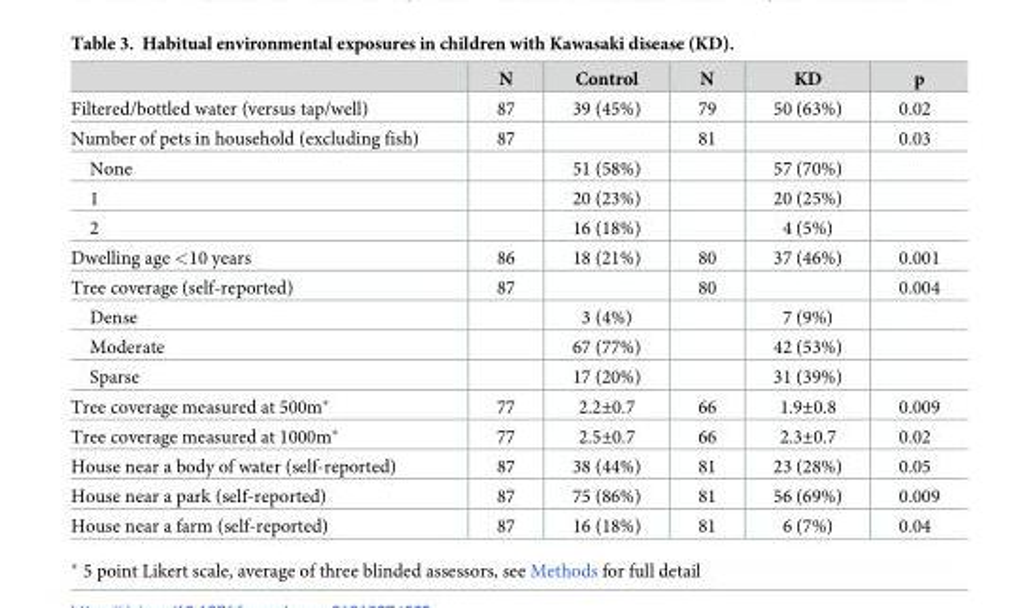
<table><thead><tr><td></td><td>N</td><td>Control</td><td>N</td><td>KD</td><td>p</td></tr></thead><tbody><tr><td>Filtered/bottled water (versus tap/well)</td><td>87</td><td>39 (45%)</td><td>79</td><td>50 (63%)</td><td>0.02</td></tr><tr><td>Number of pets in household (excluding fish)</td><td>87</td><td></td><td>81</td><td></td><td>0.03</td></tr><tr><td>None</td><td></td><td>51 (58%)</td><td></td><td>57 (70%)</td><td></td></tr><tr><td>1</td><td></td><td>20 (23%)</td><td></td><td>20 (25%)</td><td></td></tr><tr><td>2</td><td></td><td>16 (18%)</td><td></td><td>4 (5%)</td><td></td></tr><tr><td>Dwelling age &lt;10 years</td><td>86</td><td>18 (21%)</td><td>80</td><td>37 (46%)</td><td>0.001</td></tr><tr><td>Tree coverage (self-reported)</td><td>87</td><td></td><td>80</td><td></td><td>0.004</td></tr><tr><td>Dense</td><td></td><td>3 (4%)</td><td></td><td>7 (9%)</td><td></td></tr><tr><td>Moderate</td><td></td><td>67 (77%)</td><td></td><td>42 (53%)</td><td></td></tr><tr><td>Sparse</td><td></td><td>17 (20%)</td><td></td><td>31 (39%)</td><td></td></tr><tr><td>Tree coverage measured at 500m*</td><td>77</td><td>2.2±0.7</td><td>66</td><td>1.9±0.8</td><td>0.009</td></tr><tr><td>Tree coverage measured at 1000m*</td><td>77</td><td>2.5±0.7</td><td>66</td><td>2.3±0.7</td><td>0.02</td></tr><tr><td>House near a body of water (self-reported)</td><td>87</td><td>38 (44%)</td><td>81</td><td>23 (28%)</td><td>0.05</td></tr><tr><td>House near a park (self-reported)</td><td>87</td><td>75 (86%)</td><td>81</td><td>56 (69%)</td><td>0.009</td></tr><tr><td>House near a farm (self-reported)</td><td>87</td><td>16 (18%)</td><td>81</td><td>6 (7%)</td><td>0.04</td></tr></tbody></table>